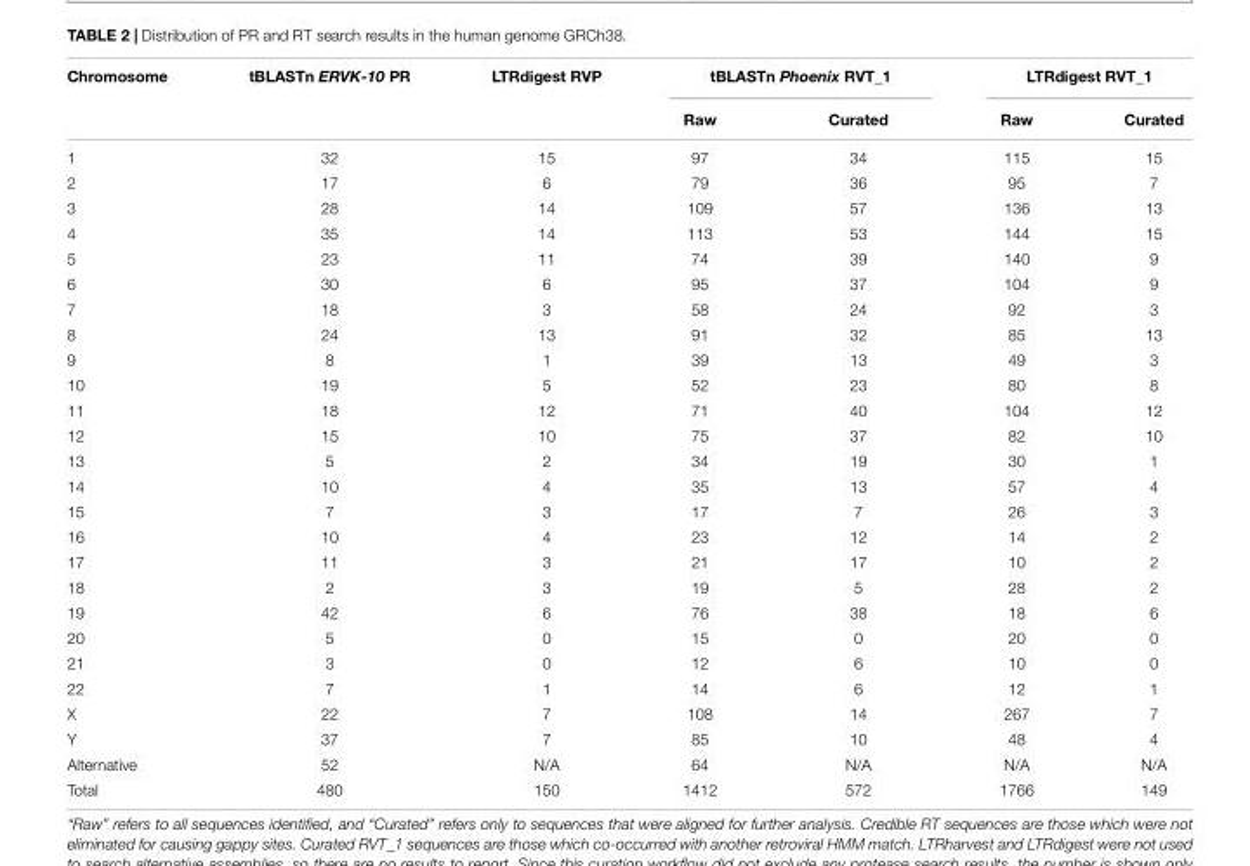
<table><thead><tr><td rowspan="2">Chromosome</td><td rowspan="2">tBLASTn ERVK-10 PR</td><td rowspan="2">LTRdigest RVP</td><td colspan="2">tBLASTn Phoenix RVT_1</td><td colspan="2">LTRdigest RVT_1</td></tr><tr><td>Raw</td><td>Curated</td><td>Raw</td><td>Curated</td></tr></thead><tbody><tr><td>1</td><td>32</td><td>15</td><td>97</td><td>34</td><td>115</td><td>15</td></tr><tr><td>2</td><td>17</td><td>6</td><td>79</td><td>36</td><td>95</td><td>7</td></tr><tr><td>3</td><td>28</td><td>14</td><td>109</td><td>57</td><td>136</td><td>13</td></tr><tr><td>4</td><td>35</td><td>14</td><td>113</td><td>53</td><td>144</td><td>15</td></tr><tr><td>5</td><td>23</td><td>11</td><td>74</td><td>39</td><td>140</td><td>9</td></tr><tr><td>6</td><td>30</td><td>6</td><td>95</td><td>37</td><td>104</td><td>9</td></tr><tr><td>7</td><td>18</td><td>3</td><td>58</td><td>24</td><td>92</td><td>3</td></tr><tr><td>8</td><td>24</td><td>13</td><td>91</td><td>32</td><td>85</td><td>13</td></tr><tr><td>9</td><td>8</td><td>1</td><td>39</td><td>13</td><td>49</td><td>3</td></tr><tr><td>10</td><td>19</td><td>5</td><td>52</td><td>23</td><td>80</td><td>8</td></tr><tr><td>11</td><td>18</td><td>12</td><td>71</td><td>40</td><td>104</td><td>12</td></tr><tr><td>12</td><td>15</td><td>10</td><td>75</td><td>37</td><td>82</td><td>10</td></tr><tr><td>13</td><td>5</td><td>2</td><td>34</td><td>19</td><td>30</td><td>1</td></tr><tr><td>14</td><td>10</td><td>4</td><td>35</td><td>13</td><td>57</td><td>4</td></tr><tr><td>15</td><td>7</td><td>3</td><td>17</td><td>7</td><td>26</td><td>3</td></tr><tr><td>16</td><td>10</td><td>4</td><td>23</td><td>12</td><td>14</td><td>2</td></tr><tr><td>17</td><td>11</td><td>3</td><td>21</td><td>17</td><td>10</td><td>2</td></tr><tr><td>18</td><td>2</td><td>3</td><td>19</td><td>5</td><td>28</td><td>2</td></tr><tr><td>19</td><td>42</td><td>6</td><td>76</td><td>38</td><td>18</td><td>6</td></tr><tr><td>20</td><td>5</td><td>0</td><td>15</td><td>0</td><td>20</td><td>0</td></tr><tr><td>21</td><td>3</td><td>0</td><td>12</td><td>6</td><td>10</td><td>0</td></tr><tr><td>22</td><td>7</td><td>1</td><td>14</td><td>6</td><td>12</td><td>1</td></tr><tr><td>X</td><td>22</td><td>7</td><td>108</td><td>14</td><td>267</td><td>7</td></tr><tr><td>Y</td><td>37</td><td>7</td><td>85</td><td>10</td><td>48</td><td>4</td></tr><tr><td>Alternative</td><td>52</td><td>N/A</td><td>64</td><td>N/A</td><td>N/A</td><td>N/A</td></tr><tr><td>Total</td><td>480</td><td>150</td><td>1412</td><td>572</td><td>1766</td><td>149</td></tr></tbody></table>